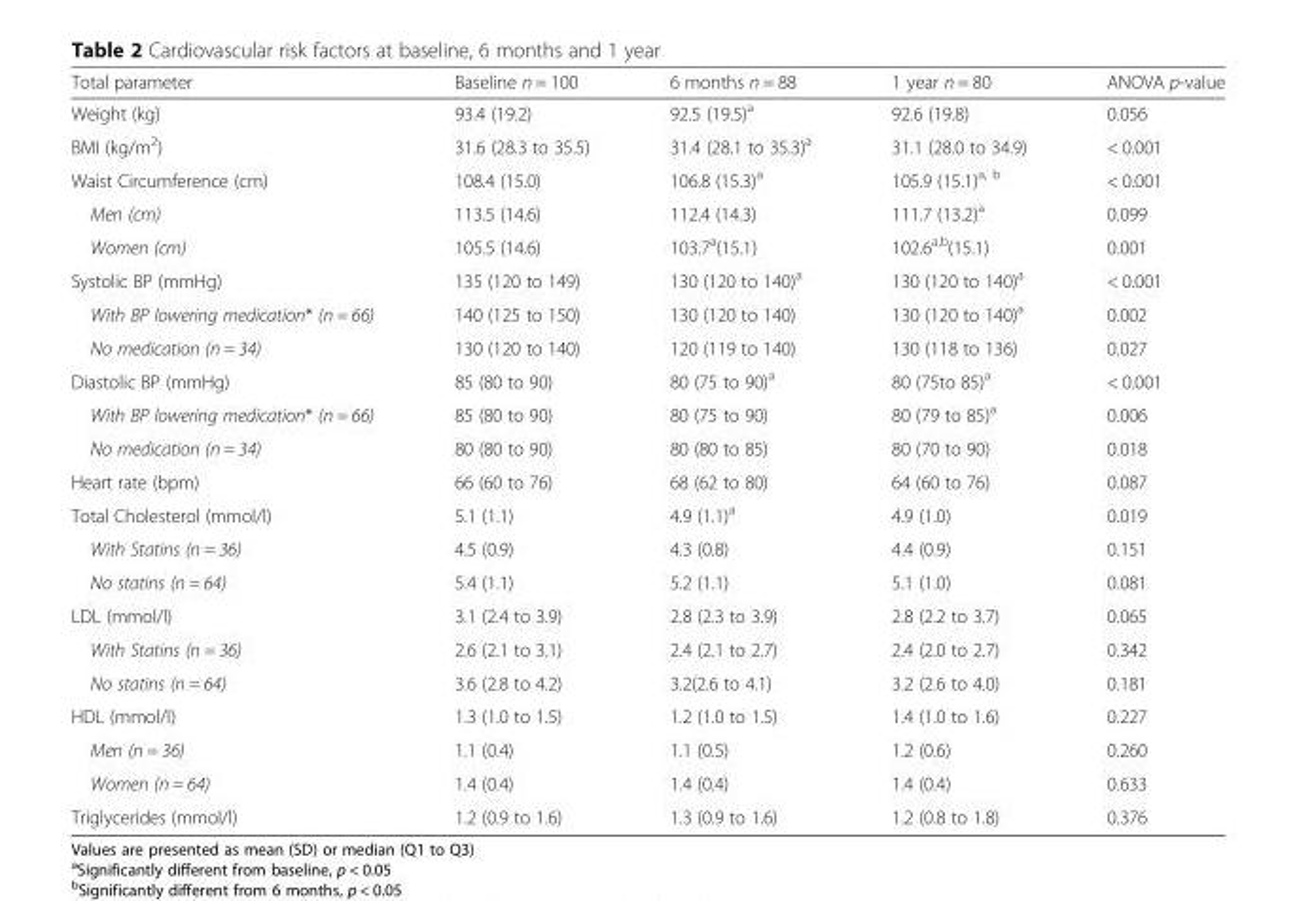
<table><thead><tr><td>Total parameter</td><td>Baseline n = 100</td><td>6 months n = 88</td><td>1 year n = 80</td><td>ANOVA p-value</td></tr></thead><tbody><tr><td>Weight (kg)</td><td>93.4 (19.2)</td><td>92.5 (19.5)<sup>a</sup></td><td>92.6 (19.8)</td><td>0.056</td></tr><tr><td>BMI (kg/m<sup>2</sup>)</td><td>31.6 (28.3 to 35.5)</td><td>31.4 (28.1 to 35.3)<sup>a</sup></td><td>31.1 (28.0 to 34.9)</td><td>&lt; 0.001</td></tr><tr><td>Waist Circumference (cm)</td><td>108.4 (15.0)</td><td>106.8 (15.3)<sup>a</sup></td><td>105.9 (15.1)<sup>a, b</sup></td><td>&lt; 0.001</td></tr><tr><td>Men (cm)</td><td>113.5 (14.6)</td><td>112.4 (14.3)</td><td>111.7 (13.2)<sup>a</sup></td><td>0.099</td></tr><tr><td>Women (cm)</td><td>105.5 (14.6)</td><td>103.7<sup>a</sup>(15.1)</td><td>102.6<sup>a,b</sup>(15.1)</td><td>0.001</td></tr><tr><td>Systolic BP (mmHg)</td><td>135 (120 to 149)</td><td>130 (120 to 140)<sup>a</sup></td><td>130 (120 to 140)<sup>a</sup></td><td>&lt; 0.001</td></tr><tr><td>With BP lowering medication* (n = 66)</td><td>140 (125 to 150)</td><td>130 (120 to 140)</td><td>130 (120 to 140)<sup>a</sup></td><td>0.002</td></tr><tr><td>No medication (n = 34)</td><td>130 (120 to 140)</td><td>120 (119 to 140)</td><td>130 (118 to 136)</td><td>0.027</td></tr><tr><td>Diastolic BP (mmHg)</td><td>85 (80 to 90)</td><td>80 (75 to 90)<sup>a</sup></td><td>80 (75to 85)<sup>a</sup></td><td>&lt; 0.001</td></tr><tr><td>With BP lowering medication* (n = 66)</td><td>85 (80 to 90)</td><td>80 (75 to 90)</td><td>80 (79 to 85)<sup>a</sup></td><td>0.006</td></tr><tr><td>No medication (n = 34)</td><td>80 (80 to 90)</td><td>80 (80 to 85)</td><td>80 (70 to 90)</td><td>0.018</td></tr><tr><td>Heart rate (bpm)</td><td>66 (60 to 76)</td><td>68 (62 to 80)</td><td>64 (60 to 76)</td><td>0.087</td></tr><tr><td>Total Cholesterol (mmol/l)</td><td>5.1 (1.1)</td><td>4.9 (1.1)<sup>a</sup></td><td>4.9 (1.0)</td><td>0.019</td></tr><tr><td>With Statins (n = 36)</td><td>4.5 (0.9)</td><td>4.3 (0.8)</td><td>4.4 (0.9)</td><td>0.151</td></tr><tr><td>No statins (n = 64)</td><td>5.4 (1.1)</td><td>5.2 (1.1)</td><td>5.1 (1.0)</td><td>0.081</td></tr><tr><td>LDL (mmol/l)</td><td>3.1 (2.4 to 3.9)</td><td>2.8 (2.3 to 3.9)</td><td>2.8 (2.2 to 3.7)</td><td>0.065</td></tr><tr><td>With Statins (n = 36)</td><td>2.6 (2.1 to 3.1)</td><td>2.4 (2.1 to 2.7)</td><td>2.4 (2.0 to 2.7)</td><td>0.342</td></tr><tr><td>No statins (n = 64)</td><td>3.6 (2.8 to 4.2)</td><td>3.2(2.6 to 4.1)</td><td>3.2 (2.6 to 4.0)</td><td>0.181</td></tr><tr><td>HDL (mmol/l)</td><td>1.3 (1.0 to 1.5)</td><td>1.2 (1.0 to 1.5)</td><td>1.4 (1.0 to 1.6)</td><td>0.227</td></tr><tr><td>Men (n = 36)</td><td>1.1 (0.4)</td><td>1.1 (0.5)</td><td>1.2 (0.6)</td><td>0.260</td></tr><tr><td>Women (n = 64)</td><td>1.4 (0.4)</td><td>1.4 (0.4)</td><td>1.4 (0.4)</td><td>0.633</td></tr><tr><td>Triglycerides (mmol/l)</td><td>1.2 (0.9 to 1.6)</td><td>1.3 (0.9 to 1.6)</td><td>1.2 (0.8 to 1.8)</td><td>0.376</td></tr></tbody></table>